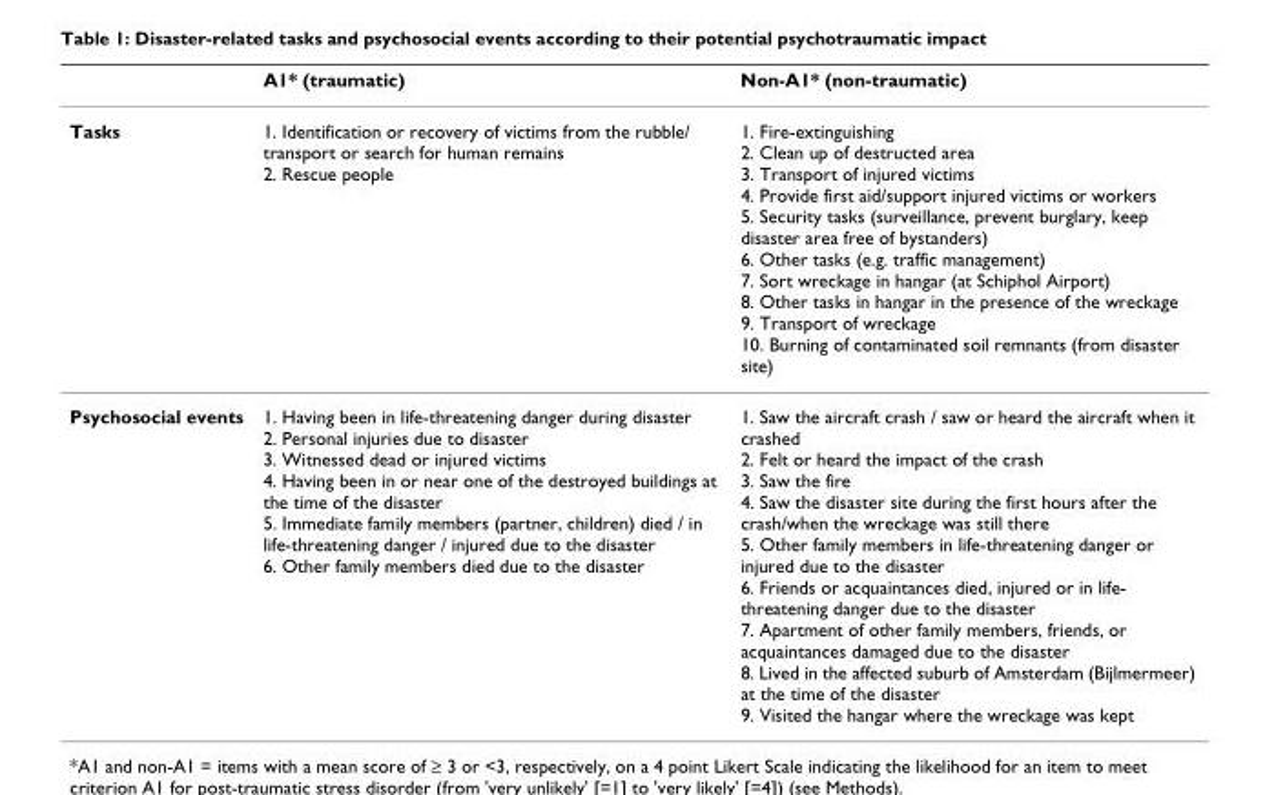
<table><thead><tr><td></td><td>A1* (traumatic)</td><td>Non-A1* (non-traumatic)</td></tr></thead><tbody><tr><td>Tasks</td><td>1. Identification or recovery of victims from the rubble/ transport or search for human remains 2. Rescue people</td><td>1. Fire-extinguishing 2. Clean up of destructed area 3. Transport of injured victims 4. Provide first aid/support injured victims or workers 5. Security tasks (surveillance, prevent burglary, keep disaster area free of bystanders) 6. Other tasks (e.g. traffic management) 7. Sort wreckage in hangar (at Schiphol Airport) 8. Other tasks in hangar in the presence of the wreckage 9. Transport of wreckage 10. Burning of contaminated soil remnants (from disaster site)</td></tr><tr><td>Psychosocial events</td><td>1. Having been in life-threatening danger during disaster 2. Personal injuries due to disaster 3. Witnessed dead or injured victims 4. Having been in or near one of the destroyed buildings at the time of the disaster 5. Immediate family members (partner, children) died / in life-threatening danger / injured due to the disaster 6. Other family members died due to the disaster</td><td>1. Saw the aircraft crash / saw or heard the aircraft when it crashed 2. Felt or heard the impact of the crash 3. Saw the fire 4. Saw the disaster site during the first hours after the crash/when the wreckage was still there 5. Other family members in life-threatening danger or injured due to the disaster 6. Friends or acquaintances died, injured or in life- threatening danger due to the disaster 7. Apartment of other family members, friends, or acquaintances damaged due to the disaster 8. Lived in the affected suburb of Amsterdam (Bijlmermeer) at the time of the disaster 9. Visited the hangar where the wreckage was kept</td></tr></tbody></table>